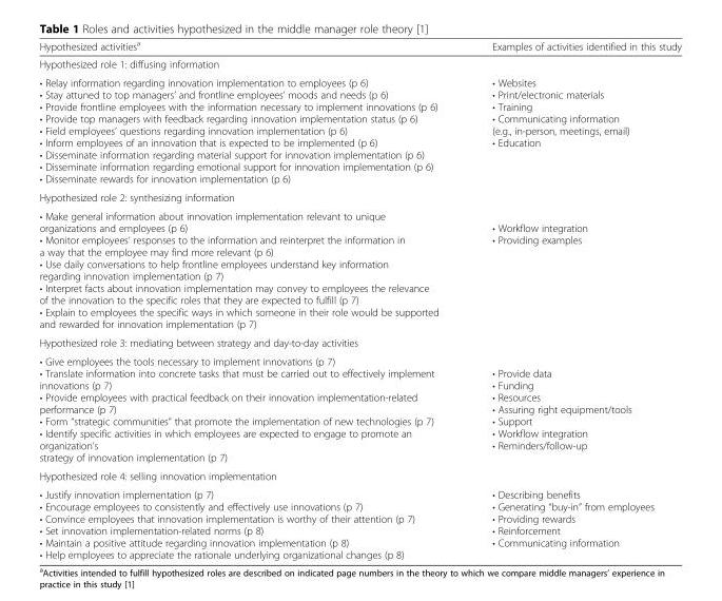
<table><thead><tr><td>Hypothesized activities<sup>a</sup></td><td>Examples of activities identified in this study</td></tr></thead><tbody><tr><td colspan="2">Hypothesized role 1: diffusing information</td></tr><tr><td>• Relay information regarding innovation implementation to employees (p 6) • Stay attuned to top managers’ and frontline employees’ moods and needs (p 6) • Provide frontline employees with the information necessary to implement innovations (p 6) • Provide top managers with feedback regarding innovation implementation status (p 6) • Field employees’ questions regarding innovation implementation (p 6) • Inform employees of an innovation that is expected to be implemented (p 6) • Disseminate information regarding material support for innovation implementation (p 6) • Disseminate information regarding emotional support for innovation implementation (p 6) • Disseminate rewards for innovation implementation (p 6)</td><td>• Websites • Print/electronic materials • Training • Communicating information (e.g., in-person, meetings, email) • Education</td></tr><tr><td colspan="2">Hypothesized role 2: synthesizing information</td></tr><tr><td>• Make general information about innovation implementation relevant to unique organizations and employees (p 6) • Monitor employees’ responses to the information and reinterpret the information in a way that the employee may find more relevant (p 6) • Use daily conversations to help frontline employees understand key information regarding innovation implementation (p 7) • Interpret facts about innovation implementation may convey to employees the relevance of the innovation to the specific roles that they are expected to fulfill (p 7) • Explain to employees the specific ways in which someone in their role would be supported and rewarded for innovation implementation (p 7)</td><td>• Workflow integration • Providing examples</td></tr><tr><td colspan="2">Hypothesized role 3: mediating between strategy and day-to-day activities</td></tr><tr><td>• Give employees the tools necessary to implement innovations (p 7) • Translate information into concrete tasks that must be carried out to effectively implement innovations (p 7) • Provide employees with practical feedback on their innovation implementation-related performance (p 7) • Form “strategic communities” that promote the implementation of new technologies (p 7) • Identify specific activities in which employees are expected to engage to promote an organization’s strategy of innovation implementation (p 7)</td><td>• Provide data • Funding • Resources • Assuring right equipment/tools • Support • Workflow integration • Reminders/follow-up</td></tr><tr><td colspan="2">Hypothesized role 4: selling innovation implementation</td></tr><tr><td>• Justify innovation implementation (p 7) • Encourage employees to consistently and effectively use innovations (p 7) • Convince employees that innovation implementation is worthy of their attention (p 7) • Set innovation implementation-related norms (p 8) • Maintain a positive attitude regarding innovation implementation (p 8) • Help employees to appreciate the rationale underlying organizational changes (p 8)</td><td>• Describing benefits • Generating “buy-in” from employees • Providing rewards • Reinforcement • Communicating information</td></tr></tbody></table>